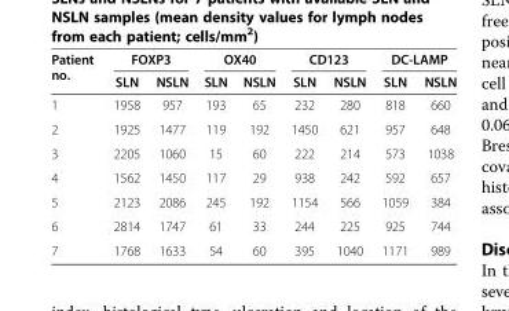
<table><thead><tr><td rowspan="2">Patient no.</td><td colspan="2">FOXP3</td><td colspan="2">OX40</td><td colspan="2">CD123</td><td colspan="2">DC-LAMP</td></tr><tr><td>SLN</td><td>NSLN</td><td>SLN</td><td>NSLN</td><td>SLN</td><td>NSLN</td><td>SLN</td><td>NSLN</td></tr></thead><tbody><tr><td>1</td><td>1958</td><td>957</td><td>193</td><td>65</td><td>232</td><td>280</td><td>818</td><td>660</td></tr><tr><td>2</td><td>1925</td><td>1477</td><td>119</td><td>192</td><td>1450</td><td>621</td><td>957</td><td>648</td></tr><tr><td>3</td><td>2205</td><td>1060</td><td>15</td><td>60</td><td>222</td><td>214</td><td>573</td><td>1038</td></tr><tr><td>4</td><td>1562</td><td>1450</td><td>117</td><td>29</td><td>938</td><td>242</td><td>592</td><td>657</td></tr><tr><td>5</td><td>2123</td><td>2086</td><td>245</td><td>192</td><td>1154</td><td>566</td><td>1059</td><td>384</td></tr><tr><td>6</td><td>2814</td><td>1747</td><td>61</td><td>33</td><td>244</td><td>225</td><td>925</td><td>744</td></tr><tr><td>7</td><td>1768</td><td>1633</td><td>54</td><td>60</td><td>395</td><td>1040</td><td>1171</td><td>989</td></tr></tbody></table>